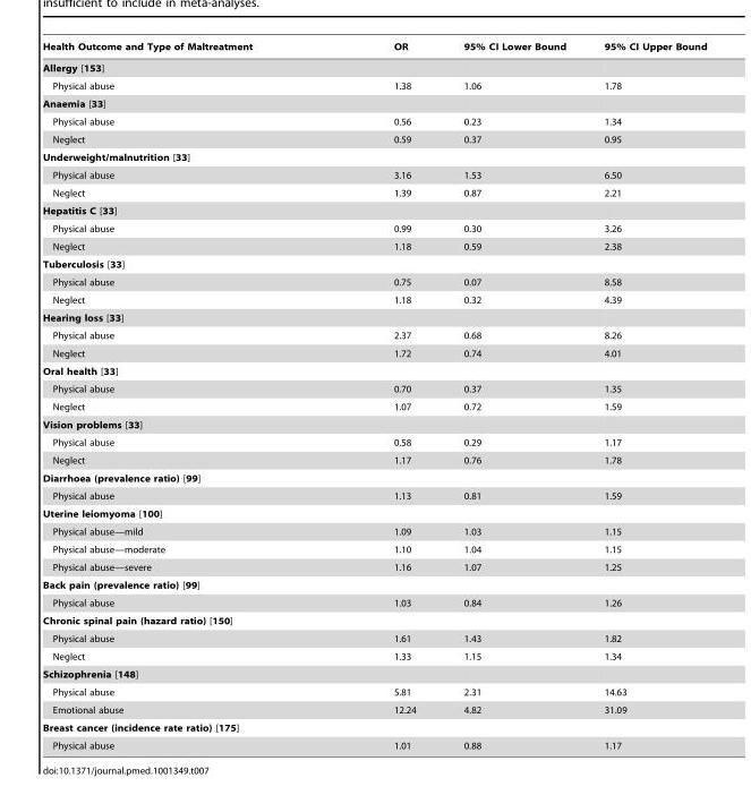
<table><thead><tr><td>Health Outcome and Type of Maltreatment</td><td>OR</td><td>95% CI Lower Bound</td><td>95% CI Upper Bound</td></tr></thead><tbody><tr><td colspan="4">Allergy [153]</td></tr><tr><td>Physical abuse</td><td>1.38</td><td>1.06</td><td>1.78</td></tr><tr><td colspan="4">Anaemia [33]</td></tr><tr><td>Physical abuse</td><td>0.56</td><td>0.23</td><td>1.34</td></tr><tr><td>Neglect</td><td>0.59</td><td>0.37</td><td>0.95</td></tr><tr><td colspan="4">Underweight/malnutrition [33]</td></tr><tr><td>Physical abuse</td><td>3.16</td><td>1.53</td><td>6.50</td></tr><tr><td>Neglect</td><td>1.39</td><td>0.87</td><td>2.21</td></tr><tr><td colspan="4">Hepatitis C [33]</td></tr><tr><td>Physical abuse</td><td>0.99</td><td>0.30</td><td>3.26</td></tr><tr><td>Neglect</td><td>1.18</td><td>0.59</td><td>2.38</td></tr><tr><td colspan="4">Tuberculosis [33]</td></tr><tr><td>Physical abuse</td><td>0.75</td><td>0.07</td><td>8.58</td></tr><tr><td>Neglect</td><td>1.18</td><td>0.32</td><td>4.39</td></tr><tr><td colspan="4">Hearing loss [33]</td></tr><tr><td>Physical abuse</td><td>2.37</td><td>0.68</td><td>8.26</td></tr><tr><td>Neglect</td><td>1.72</td><td>0.74</td><td>4.01</td></tr><tr><td colspan="4">Oral health [33]</td></tr><tr><td>Physical abuse</td><td>0.70</td><td>0.37</td><td>1.35</td></tr><tr><td>Neglect</td><td>1.07</td><td>0.72</td><td>1.59</td></tr><tr><td colspan="4">Vision problems [33]</td></tr><tr><td>Physical abuse</td><td>0.58</td><td>0.29</td><td>1.17</td></tr><tr><td>Neglect</td><td>1.17</td><td>0.76</td><td>1.78</td></tr><tr><td colspan="4">Diarrhoea (prevalence ratio) [99]</td></tr><tr><td>Physical abuse</td><td>1.13</td><td>0.81</td><td>1.59</td></tr><tr><td colspan="4">Uterine leiomyoma [100]</td></tr><tr><td>Physical abuse—mild</td><td>1.09</td><td>1.03</td><td>1.15</td></tr><tr><td>Physical abuse—moderate</td><td>1.10</td><td>1.04</td><td>1.15</td></tr><tr><td>Physical abuse—severe</td><td>1.16</td><td>1.07</td><td>1.25</td></tr><tr><td colspan="4">Back pain (prevalence ratio) [99]</td></tr><tr><td>Physical abuse</td><td>1.03</td><td>0.84</td><td>1.26</td></tr><tr><td colspan="4">Chronic spinal pain (hazard ratio) [150]</td></tr><tr><td>Physical abuse</td><td>1.61</td><td>1.43</td><td>1.82</td></tr><tr><td>Neglect</td><td>1.33</td><td>1.15</td><td>1.34</td></tr><tr><td colspan="4">Schizophrenia [148]</td></tr><tr><td>Physical abuse</td><td>5.81</td><td>2.31</td><td>14.63</td></tr><tr><td>Emotional abuse</td><td>12.24</td><td>4.82</td><td>31.09</td></tr><tr><td colspan="4">Breast cancer (incidence rate ratio) [175]</td></tr><tr><td>Physical abuse</td><td>1.01</td><td>0.88</td><td>1.17</td></tr></tbody></table>